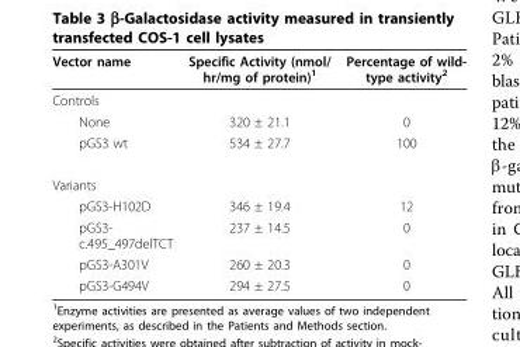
<table><thead><tr><td>Vector name</td><td>Specific Activity (nmol/ hr/mg of protein)<sup>1</sup></td><td>Percentage of wild- type activity<sup>2</sup></td></tr></thead><tbody><tr><td colspan="3">Controls</td></tr><tr><td>None</td><td>320 ± 21.1</td><td>0</td></tr><tr><td>pGS3 wt</td><td>534 ± 27.7</td><td>100</td></tr><tr><td colspan="3">Variants</td></tr><tr><td>pGS3-H102D</td><td>346 ± 19.4</td><td>12</td></tr><tr><td>pGS3- c.495_497delTCT</td><td>237 ± 14.5</td><td>0</td></tr><tr><td>pGS3-A301V</td><td>260 ± 20.3</td><td>0</td></tr><tr><td>pGS3-G494V</td><td>294 ± 27.5</td><td>0</td></tr></tbody></table>